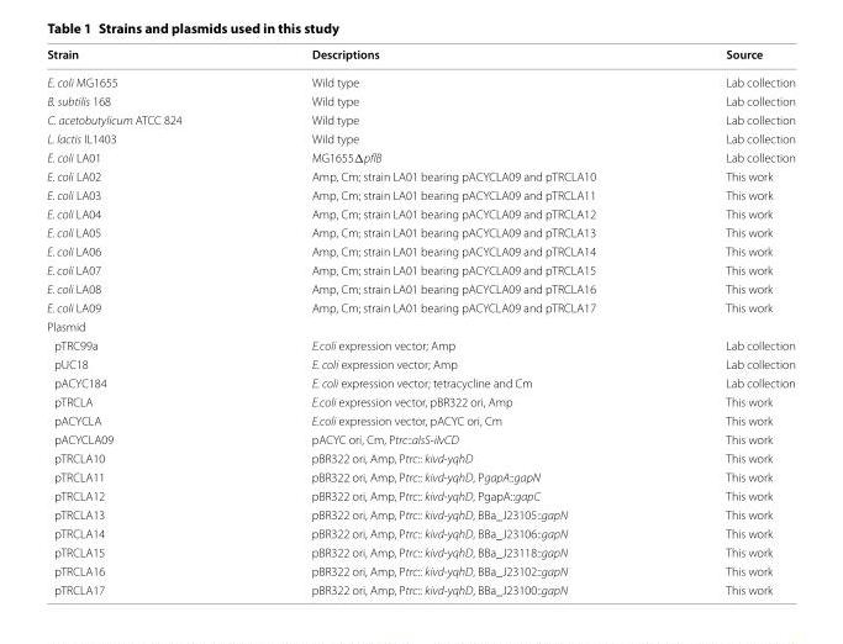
<table><thead><tr><td>Strain</td><td>Descriptions</td><td>Source</td></tr></thead><tbody><tr><td>E. coli MG1655</td><td>Wild type</td><td>Lab collection</td></tr><tr><td>B. subtilis 168</td><td>Wild type</td><td>Lab collection</td></tr><tr><td>C. acetobutylicum ATCC 824</td><td>Wild type</td><td>Lab collection</td></tr><tr><td>L. lactis IL1403</td><td>Wild type</td><td>Lab collection</td></tr><tr><td>E. coli LA01</td><td>MG1655∆pflB</td><td>Lab collection</td></tr><tr><td>E. coli LA02</td><td>Amp, Cm; strain LA01 bearing pACYCLA09 and pTRCLA10</td><td>This work</td></tr><tr><td>E. coli LA03</td><td>Amp, Cm; strain LA01 bearing pACYCLA09 and pTRCLA11</td><td>This work</td></tr><tr><td>E. coli LA04</td><td>Amp, Cm; strain LA01 bearing pACYCLA09 and pTRCLA12</td><td>This work</td></tr><tr><td>E. coli LA05</td><td>Amp, Cm; strain LA01 bearing pACYCLA09 and pTRCLA13</td><td>This work</td></tr><tr><td>E. coli LA06</td><td>Amp, Cm; strain LA01 bearing pACYCLA09 and pTRCLA14</td><td>This work</td></tr><tr><td>E. coli LA07</td><td>Amp, Cm; strain LA01 bearing pACYCLA09 and pTRCLA15</td><td>This work</td></tr><tr><td>E. coli LA08</td><td>Amp, Cm; strain LA01 bearing pACYCLA09 and pTRCLA16</td><td>This work</td></tr><tr><td>E. coli LA09</td><td>Amp, Cm; strain LA01 bearing pACYCLA09 and pTRCLA17</td><td>This work</td></tr><tr><td colspan="3">Plasmid</td></tr><tr><td>pTRC99a</td><td>E.coli expression vector; Amp</td><td>Lab collection</td></tr><tr><td>pUC18</td><td>E. coli expression vector; Amp</td><td>Lab collection</td></tr><tr><td>pACYC184</td><td>E. coli expression vector; tetracycline and Cm</td><td>Lab collection</td></tr><tr><td>pTRCLA</td><td>E.coli expression vector, pBR322 ori, Amp</td><td>This work</td></tr><tr><td>pACYCLA</td><td>E.coli expression vector, pACYC ori, Cm</td><td>This work</td></tr><tr><td>pACYCLA09</td><td>pACYC ori, Cm, Ptrc::alsS-ilvCD</td><td>This work</td></tr><tr><td>pTRCLA10</td><td>pBR322 ori, Amp, Ptrc:: kivd-yqhD</td><td>This work</td></tr><tr><td>pTRCLA11</td><td>pBR322 ori, Amp, Ptrc:: kivd-yqhD, PgapA::gapN</td><td>This work</td></tr><tr><td>pTRCLA12</td><td>pBR322 ori, Amp, Ptrc:: kivd-yqhD, PgapA::gapC</td><td>This work</td></tr><tr><td>pTRCLA13</td><td>pBR322 ori, Amp, Ptrc:: kivd-yqhD, BBa_J23105::gapN</td><td>This work</td></tr><tr><td>pTRCLA14</td><td>pBR322 ori, Amp, Ptrc:: kivd-yqhD, BBa_J23106::gapN</td><td>This work</td></tr><tr><td>pTRCLA15</td><td>pBR322 ori, Amp, Ptrc:: kivd-yqhD, BBa_J23118::gapN</td><td>This work</td></tr><tr><td>pTRCLA16</td><td>pBR322 ori, Amp, Ptrc:: kivd-yqhD, BBa_J23102::gapN</td><td>This work</td></tr><tr><td>pTRCLA17</td><td>pBR322 ori, Amp, Ptrc:: kivd-yqhD, BBa_J23100::gapN</td><td>This work</td></tr></tbody></table>